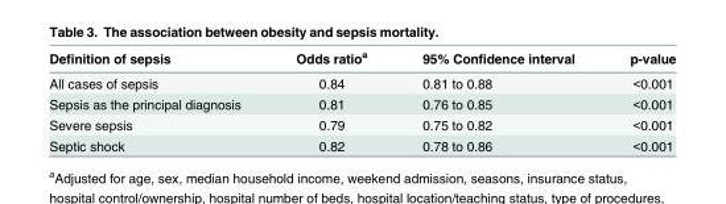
<table><thead><tr><td>Definition of sepsis</td><td>Odds ratio<sup>a</sup></td><td>95% Confidence interval</td><td>p-value</td></tr></thead><tbody><tr><td>All cases of sepsis</td><td>0.84</td><td>0.81 to 0.88</td><td>&lt;0.001</td></tr><tr><td>Sepsis as the principal diagnosis</td><td>0.81</td><td>0.76 to 0.85</td><td>&lt;0.001</td></tr><tr><td>Severe sepsis</td><td>0.79</td><td>0.75 to 0.82</td><td>&lt;0.001</td></tr><tr><td>Septic shock</td><td>0.82</td><td>0.78 to 0.86</td><td>&lt;0.001</td></tr></tbody></table>